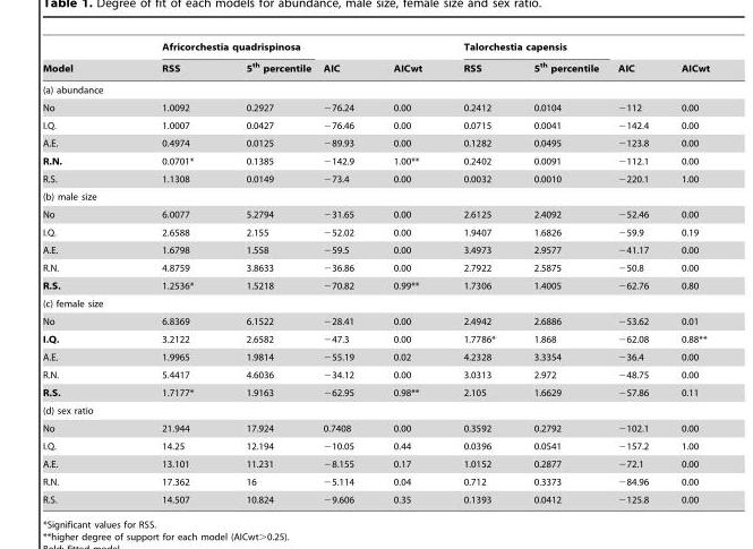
<table><thead><tr><td rowspan="2">Model</td><td colspan="2">Africorchestia quadrispinosa</td><td rowspan="2">AIC</td><td rowspan="2">AICwt</td><td colspan="2">Talorchestia capensis</td><td rowspan="2">AIC</td><td rowspan="2">AICwt</td></tr><tr><td>RSS</td><td>5<sup>th</sup> percentile</td><td>RSS</td><td>5<sup>th</sup> percentile</td></tr></thead><tbody><tr><td colspan="9">(a) abundance</td></tr><tr><td>No</td><td>1.0092</td><td>0.2927</td><td>−76.24</td><td>0.00</td><td>0.2412</td><td>0.0104</td><td>−112</td><td>0.00</td></tr><tr><td>I.Q.</td><td>1.0007</td><td>0.0427</td><td>−76.46</td><td>0.00</td><td>0.0715</td><td>0.0041</td><td>−142.4</td><td>0.00</td></tr><tr><td>A.E.</td><td>0.4974</td><td>0.0125</td><td>−89.93</td><td>0.00</td><td>0.1282</td><td>0.0495</td><td>−123.8</td><td>0.00</td></tr><tr><td>R.N.</td><td>0.0701*</td><td>0.1385</td><td>−142.9</td><td>1.00**</td><td>0.2402</td><td>0.0091</td><td>−112.1</td><td>0.00</td></tr><tr><td>R.S.</td><td>1.1308</td><td>0.0149</td><td>−73.4</td><td>0.00</td><td>0.0032</td><td>0.0010</td><td>−220.1</td><td>1.00</td></tr><tr><td colspan="9">(b) male size</td></tr><tr><td>No</td><td>6.0077</td><td>5.2794</td><td>−31.65</td><td>0.00</td><td>2.6125</td><td>2.4092</td><td>−52.46</td><td>0.00</td></tr><tr><td>I.Q.</td><td>2.6588</td><td>2.155</td><td>−52.02</td><td>0.00</td><td>1.9407</td><td>1.6826</td><td>−59.9</td><td>0.19</td></tr><tr><td>A.E.</td><td>1.6798</td><td>1.558</td><td>−59.5</td><td>0.00</td><td>3.4973</td><td>2.9577</td><td>−41.17</td><td>0.00</td></tr><tr><td>R.N.</td><td>4.8759</td><td>3.8633</td><td>−36.86</td><td>0.00</td><td>2.7922</td><td>2.5875</td><td>−50.8</td><td>0.00</td></tr><tr><td>R.S.</td><td>1.2536*</td><td>1.5218</td><td>−70.82</td><td>0.99**</td><td>1.7306</td><td>1.4005</td><td>−62.76</td><td>0.80</td></tr><tr><td colspan="9">(c) female size</td></tr><tr><td>No</td><td>6.8369</td><td>6.1522</td><td>−28.41</td><td>0.00</td><td>2.4942</td><td>2.6886</td><td>−53.62</td><td>0.01</td></tr><tr><td>I.Q.</td><td>3.2122</td><td>2.6582</td><td>−47.3</td><td>0.00</td><td>1.7786*</td><td>1.868</td><td>−62.08</td><td>0.88**</td></tr><tr><td>A.E.</td><td>1.9965</td><td>1.9814</td><td>−55.19</td><td>0.02</td><td>4.2328</td><td>3.3354</td><td>−36.4</td><td>0.00</td></tr><tr><td>R.N.</td><td>5.4417</td><td>4.6036</td><td>−34.12</td><td>0.00</td><td>3.0313</td><td>2.972</td><td>−48.75</td><td>0.00</td></tr><tr><td>R.S.</td><td>1.7177*</td><td>1.9163</td><td>−62.95</td><td>0.98**</td><td>2.105</td><td>1.6629</td><td>−57.86</td><td>0.11</td></tr><tr><td colspan="9">(d) sex ratio</td></tr><tr><td>No</td><td>21.944</td><td>17.924</td><td>0.7408</td><td>0.00</td><td>0.3592</td><td>0.2792</td><td>−102.1</td><td>0.00</td></tr><tr><td>I.Q.</td><td>14.25</td><td>12.194</td><td>−10.05</td><td>0.44</td><td>0.0396</td><td>0.0541</td><td>−157.2</td><td>1.00</td></tr><tr><td>A.E.</td><td>13.101</td><td>11.231</td><td>−8.155</td><td>0.17</td><td>1.0152</td><td>0.2877</td><td>−72.1</td><td>0.00</td></tr><tr><td>R.N.</td><td>17.362</td><td>16</td><td>−5.114</td><td>0.04</td><td>0.712</td><td>0.3373</td><td>−84.96</td><td>0.00</td></tr><tr><td>R.S.</td><td>14.507</td><td>10.824</td><td>−9.606</td><td>0.35</td><td>0.1393</td><td>0.0412</td><td>−125.8</td><td>0.00</td></tr></tbody></table>